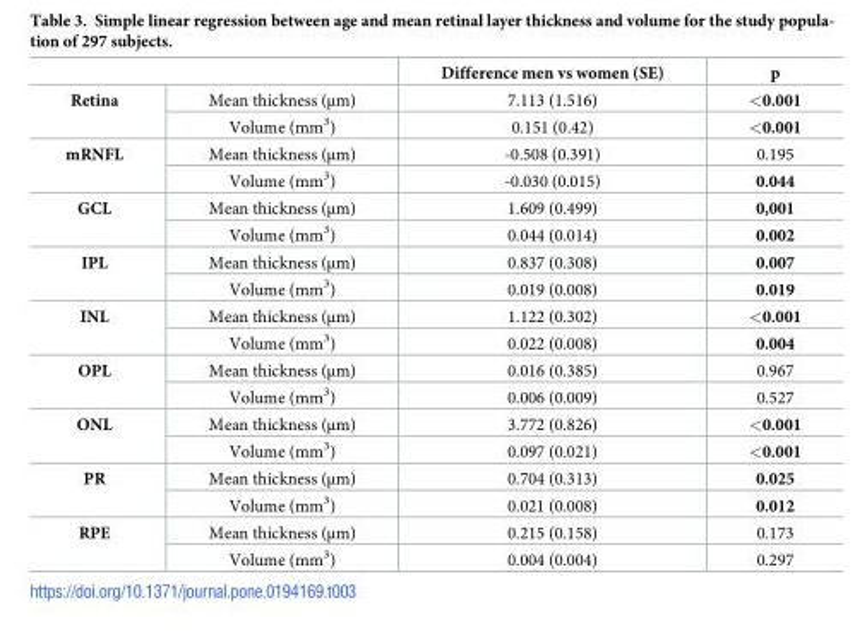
<table><thead><tr><td></td><td></td><td>Difference men vs women (SE)</td><td>p</td></tr></thead><tbody><tr><td rowspan="2">Retina</td><td>Mean thickness (μm)</td><td>7.113 (1.516)</td><td>&lt;0.001</td></tr><tr><td>Volume (mm<sup>3</sup>)</td><td>0.151 (0.42)</td><td>&lt;0.001</td></tr><tr><td rowspan="2">mRNFL</td><td>Mean thickness (μm)</td><td>-0.508 (0.391)</td><td>0.195</td></tr><tr><td>Volume (mm<sup>3</sup>)</td><td>-0.030 (0.015)</td><td>0.044</td></tr><tr><td rowspan="2">GCL</td><td>Mean thickness (μm)</td><td>1.609 (0.499)</td><td>0,001</td></tr><tr><td>Volume (mm<sup>3</sup>)</td><td>0.044 (0.014)</td><td>0.002</td></tr><tr><td rowspan="2">IPL</td><td>Mean thickness (μm)</td><td>0.837 (0.308)</td><td>0.007</td></tr><tr><td>Volume (mm<sup>3</sup>)</td><td>0.019 (0.008)</td><td>0.019</td></tr><tr><td rowspan="2">INL</td><td>Mean thickness (μm)</td><td>1.122 (0.302)</td><td>&lt;0.001</td></tr><tr><td>Volume (mm<sup>3</sup>)</td><td>0.022 (0.008)</td><td>0.004</td></tr><tr><td rowspan="2">OPL</td><td>Mean thickness (μm)</td><td>0.016 (0.385)</td><td>0.967</td></tr><tr><td>Volume (mm<sup>3</sup>)</td><td>0.006 (0.009)</td><td>0.527</td></tr><tr><td rowspan="2">ONL</td><td>Mean thickness (μm)</td><td>3.772 (0.826)</td><td>&lt;0.001</td></tr><tr><td>Volume (mm<sup>3</sup>)</td><td>0.097 (0.021)</td><td>&lt;0.001</td></tr><tr><td rowspan="2">PR</td><td>Mean thickness (μm)</td><td>0.704 (0.313)</td><td>0.025</td></tr><tr><td>Volume (mm<sup>3</sup>)</td><td>0.021 (0.008)</td><td>0.012</td></tr><tr><td rowspan="2">RPE</td><td>Mean thickness (μm)</td><td>0.215 (0.158)</td><td>0.173</td></tr><tr><td>Volume (mm<sup>3</sup>)</td><td>0.004 (0.004)</td><td>0.297</td></tr></tbody></table>